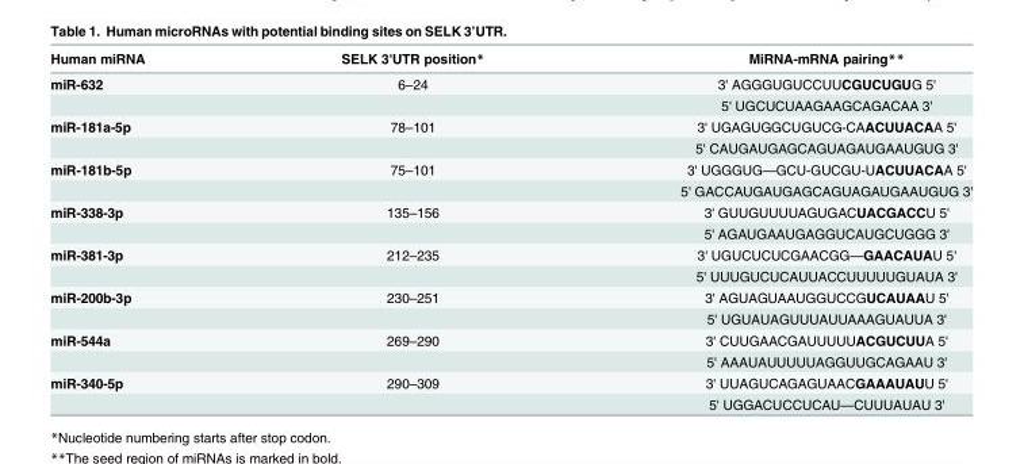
<table><thead><tr><td>Human miRNA</td><td>SELK 3&#x27;UTR position*</td><td>MiRNA-mRNA pairing**</td></tr></thead><tbody><tr><td rowspan="2">miR-632</td><td>6–24</td><td>3&#x27; AGGGUGUCCUUCGUCUGUG 5&#x27;</td></tr><tr><td></td><td>5&#x27; UGCUCUAAGAAGCAGACAA 3&#x27;</td></tr><tr><td rowspan="2">miR-181a-5p</td><td>78–101</td><td>3&#x27; UGAGUGGCUGUCG-CAACUUACAA 5&#x27;</td></tr><tr><td></td><td>5&#x27; CAUGAUGAGCAGUAGAUGAAUGUG 3&#x27;</td></tr><tr><td rowspan="2">miR-181b-5p</td><td>75–101</td><td>3&#x27; UGGGUG—GCU-GUCGU-UACUUACAA 5&#x27;</td></tr><tr><td></td><td>5&#x27; GACCAUGAUGAGCAGUAGAUGAAUGUG 3&#x27;</td></tr><tr><td rowspan="2">miR-338-3p</td><td>135–156</td><td>3&#x27; GUUGUUUUAGUGACUACGACCU 5&#x27;</td></tr><tr><td></td><td>5&#x27; AGAUGAAUGAGGUCAUGCUGGG 3&#x27;</td></tr><tr><td rowspan="2">miR-381-3p</td><td>212–235</td><td>3&#x27; UGUCUCUCGAACGG—GAACAUAU 5&#x27;</td></tr><tr><td></td><td>5&#x27; UUUGUCUCAUUACCUUUUUGUAUA 3&#x27;</td></tr><tr><td rowspan="2">miR-200b-3p</td><td>230–251</td><td>3&#x27; AGUAGUAAUGGUCCGUCAUAAU 5&#x27;</td></tr><tr><td></td><td>5&#x27; UGUAUAGUUUAUUAAAGUAUUA 3&#x27;</td></tr><tr><td rowspan="2">miR-544a</td><td>269–290</td><td>3&#x27; CUUGAACGAUUUUUACGUCUUA 5&#x27;</td></tr><tr><td></td><td>5&#x27; AAAUAUUUUUAGGUUGCAGAAU 3&#x27;</td></tr><tr><td rowspan="2">miR-340-5p</td><td>290–309</td><td>3&#x27; UUAGUCAGAGUAACGAAAUAUU 5&#x27;</td></tr><tr><td></td><td>5&#x27; UGGACUCCUCAU—CUUUAUAU 3&#x27;</td></tr></tbody></table>